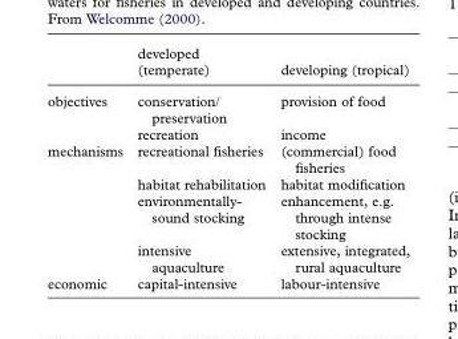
<table><thead><tr><td></td><td>developed (temperate)</td><td>developing (tropical)</td></tr></thead><tbody><tr><td rowspan="2">objectives</td><td>conservation/ preservation</td><td>provision of food</td></tr><tr><td>recreation</td><td>income</td></tr><tr><td rowspan="4">mechanisms</td><td>recreational fisheries</td><td>(commercial) food fisheries</td></tr><tr><td>habitat rehabilitation</td><td>habitat modification</td></tr><tr><td>environmentally- sound stocking</td><td>enhancement, e.g. through intense stocking</td></tr><tr><td>intensive aquaculture</td><td>extensive, integrated, rural aquaculture</td></tr><tr><td>economic</td><td>capital-intensive</td><td>labour-intensive</td></tr></tbody></table>